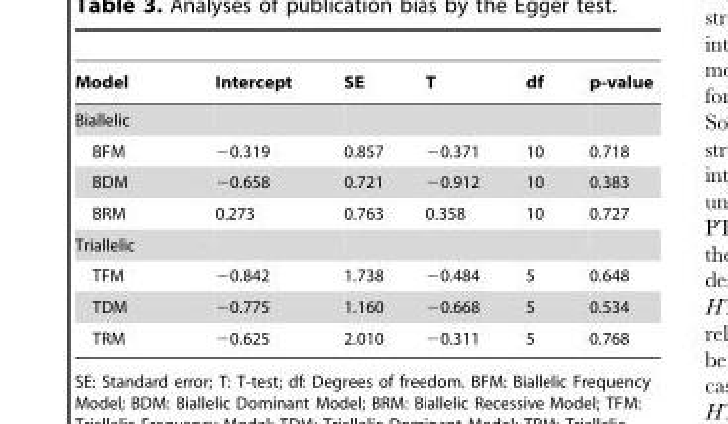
<table><thead><tr><td>Model</td><td>Intercept</td><td>SE</td><td>T</td><td>df</td><td>p-value</td></tr></thead><tbody><tr><td colspan="6">Biallelic</td></tr><tr><td>BFM</td><td>−0.319</td><td>0.857</td><td>−0.371</td><td>10</td><td>0.718</td></tr><tr><td>BDM</td><td>−0.658</td><td>0.721</td><td>−0.912</td><td>10</td><td>0.383</td></tr><tr><td>BRM</td><td>0.273</td><td>0.763</td><td>0.358</td><td>10</td><td>0.727</td></tr><tr><td colspan="6">Triallelic</td></tr><tr><td>TFM</td><td>−0.842</td><td>1.738</td><td>−0.484</td><td>5</td><td>0.648</td></tr><tr><td>TDM</td><td>−0.775</td><td>1.160</td><td>−0.668</td><td>5</td><td>0.534</td></tr><tr><td>TRM</td><td>−0.625</td><td>2.010</td><td>−0.311</td><td>5</td><td>0.768</td></tr></tbody></table>